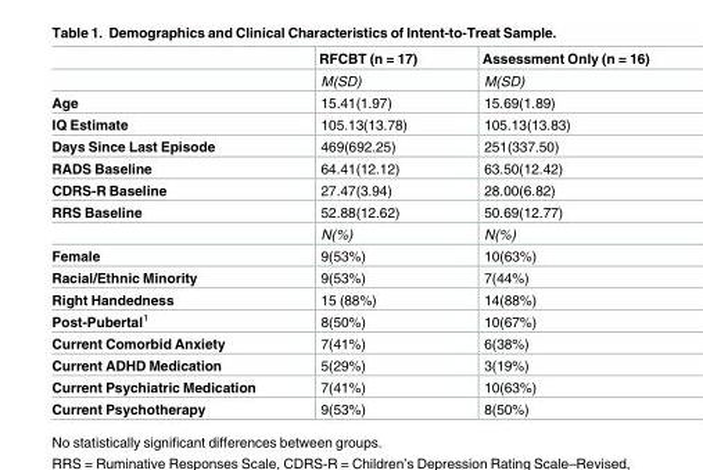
<table><thead><tr><td></td><td>RFCBT (n = 17)</td><td>Assessment Only (n = 16)</td></tr></thead><tbody><tr><td></td><td>M(SD)</td><td>M(SD)</td></tr><tr><td>Age</td><td>15.41(1.97)</td><td>15.69(1.89)</td></tr><tr><td>IQ Estimate</td><td>105.13(13.78)</td><td>105.13(13.83)</td></tr><tr><td>Days Since Last Episode</td><td>469(692.25)</td><td>251(337.50)</td></tr><tr><td>RADS Baseline</td><td>64.41(12.12)</td><td>63.50(12.42)</td></tr><tr><td>CDRS-R Baseline</td><td>27.47(3.94)</td><td>28.00(6.82)</td></tr><tr><td rowspan="2">RRS Baseline</td><td>52.88(12.62)</td><td>50.69(12.77)</td></tr><tr><td>N(%)</td><td>N(%)</td></tr><tr><td>Female</td><td>9(53%)</td><td>10(63%)</td></tr><tr><td>Racial/Ethnic Minority</td><td>9(53%)</td><td>7(44%)</td></tr><tr><td>Right Handedness</td><td>15 (88%)</td><td>14(88%)</td></tr><tr><td>Post-Pubertal<sup>1</sup></td><td>8(50%)</td><td>10(67%)</td></tr><tr><td>Current Comorbid Anxiety</td><td>7(41%)</td><td>6(38%)</td></tr><tr><td>Current ADHD Medication</td><td>5(29%)</td><td>3(19%)</td></tr><tr><td>Current Psychiatric Medication</td><td>7(41%)</td><td>10(63%)</td></tr><tr><td>Current Psychotherapy</td><td>9(53%)</td><td>8(50%)</td></tr></tbody></table>